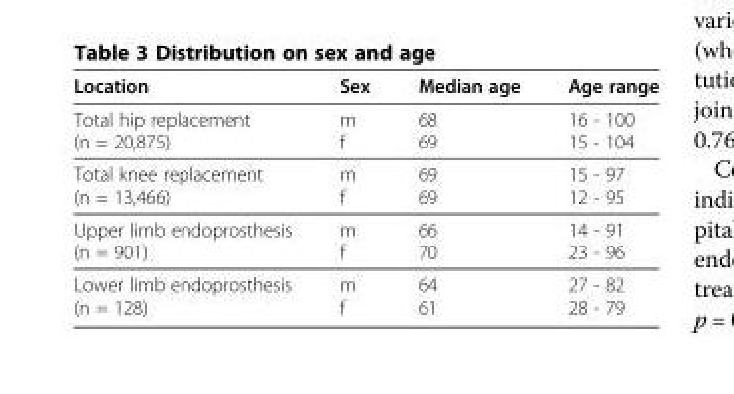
<table><thead><tr><td>Location</td><td>Sex</td><td>Median age</td><td>Age range</td></tr></thead><tbody><tr><td>Total hip replacement</td><td>m</td><td>68</td><td>16 - 100</td></tr><tr><td>(n = 20,875)</td><td>f</td><td>69</td><td>15 - 104</td></tr><tr><td>Total knee replacement</td><td>m</td><td>69</td><td>15 - 97</td></tr><tr><td>(n = 13,466)</td><td>f</td><td>69</td><td>12 - 95</td></tr><tr><td>Upper limb endoprosthesis</td><td>m</td><td>66</td><td>14 - 91</td></tr><tr><td>(n = 901)</td><td>f</td><td>70</td><td>23 - 96</td></tr><tr><td>Lower limb endoprosthesis</td><td>m</td><td>64</td><td>27 - 82</td></tr><tr><td>(n = 128)</td><td>f</td><td>61</td><td>28 - 79</td></tr></tbody></table>